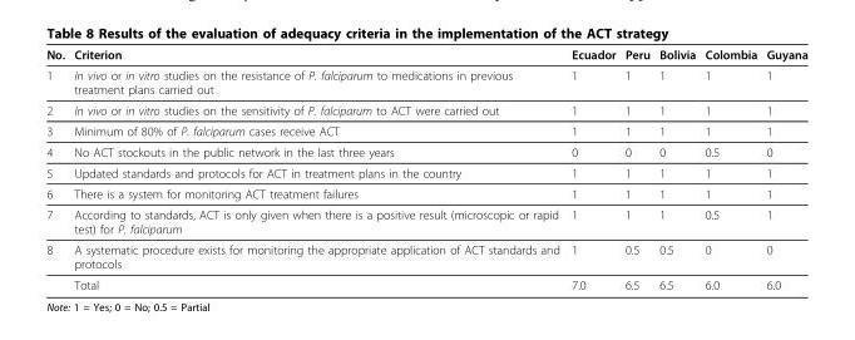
<table><thead><tr><td>No.</td><td>Criterion</td><td>Ecuador</td><td>Peru</td><td>Bolivia</td><td>Colombia</td><td>Guyana</td></tr></thead><tbody><tr><td>1</td><td>In vivo or in vitro studies on the resistance of P. falciparum to medications in previous treatment plans carried out</td><td>1</td><td>1</td><td>1</td><td>1</td><td>1</td></tr><tr><td>2</td><td>In vivo or in vitro studies on the sensitivity of P. falciparum to ACT were carried out</td><td>1</td><td>1</td><td>1</td><td>1</td><td>1</td></tr><tr><td>3</td><td>Minimum of 80% of P. falciparum cases receive ACT</td><td>1</td><td>1</td><td>1</td><td>1</td><td>1</td></tr><tr><td>4</td><td>No ACT stockouts in the public network in the last three years</td><td>0</td><td>0</td><td>0</td><td>0.5</td><td>0</td></tr><tr><td>5</td><td>Updated standards and protocols for ACT in treatment plans in the country</td><td>1</td><td>1</td><td>1</td><td>1</td><td>1</td></tr><tr><td>6</td><td>There is a system for monitoring ACT treatment failures</td><td>1</td><td>1</td><td>1</td><td>1</td><td>1</td></tr><tr><td>7</td><td>According to standards, ACT is only given when there is a positive result (microscopic or rapid test) for P. falciparum</td><td>1</td><td>1</td><td>1</td><td>0.5</td><td>1</td></tr><tr><td rowspan="2">8</td><td>A systematic procedure exists for monitoring the appropriate application of ACT standards and protocols</td><td>1</td><td>0.5</td><td>0.5</td><td>0</td><td>0</td></tr><tr><td>Total</td><td>7.0</td><td>6.5</td><td>6.5</td><td>6.0</td><td>6.0</td></tr></tbody></table>